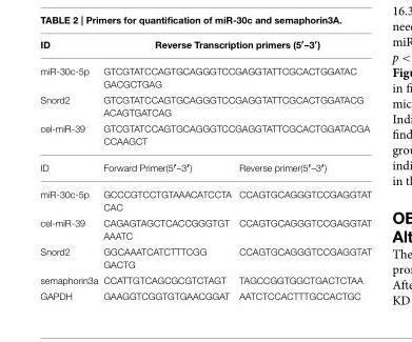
<table><thead><tr><td>ID</td><td colspan="2">Reverse Transcription primers (5′–3′)</td></tr></thead><tbody><tr><td>miR-30c-5p</td><td colspan="2">GTCGTATCCAGTGCAGGGTCCGAGGTATTCGCACTGGATAC GACGCTGAG</td></tr><tr><td>Snord2</td><td colspan="2">GTCGTATCCAGTGCAGGGTCCGAGGTATTCGCACTGGATACG ACAGTGATCAG</td></tr><tr><td>cel-miR-39</td><td colspan="2">GTCGTATCCAGTGCAGGGTCCGAGGTATTCGCACTGGATACGA CCAAGCT</td></tr><tr><td>ID</td><td>Forward Primer(5′–3′)</td><td>Reverse primer(5′–3′)</td></tr><tr><td>miR-30c-5p</td><td>GCCCGTCCTGTAAACATCCTA CAC</td><td>CCAGTGCAGGGTCCGAGGTAT</td></tr><tr><td>cel-miR-39</td><td>CAGAGTAGCTCACCGGGTGT AAATC</td><td>CCAGTGCAGGGTCCGAGGTAT</td></tr><tr><td>Snord2</td><td>GGCAAATCATCTTTCGG GACTG</td><td>CCAGTGCAGGGTCCGAGGTAT</td></tr><tr><td>semaphorin3a</td><td>CCATTGTCAGCGCGTCTAGT</td><td>TAGCCGGTGGCTGACTCTAA</td></tr><tr><td>GAPDH</td><td>GAAGGTCGGTGTGAACGGAT</td><td>AATCTCCACTTTGCCACTGC</td></tr></tbody></table>